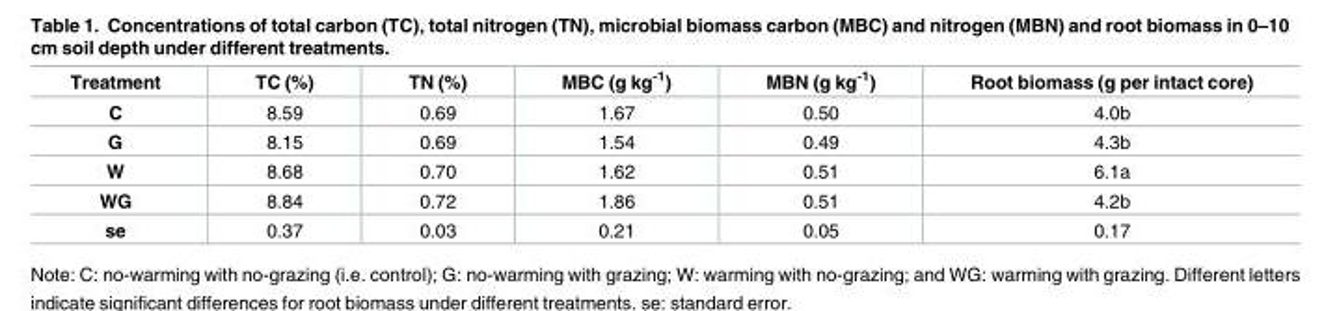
<table><thead><tr><td>Treatment</td><td>TC (%)</td><td>TN (%)</td><td>MBC (g kg<sup>-1</sup>)</td><td>MBN (g kg<sup>-1</sup>)</td><td>Root biomass (g per intact core)</td></tr></thead><tbody><tr><td>C</td><td>8.59</td><td>0.69</td><td>1.67</td><td>0.50</td><td>4.0b</td></tr><tr><td>G</td><td>8.15</td><td>0.69</td><td>1.54</td><td>0.49</td><td>4.3b</td></tr><tr><td>W</td><td>8.68</td><td>0.70</td><td>1.62</td><td>0.51</td><td>6.1a</td></tr><tr><td>WG</td><td>8.84</td><td>0.72</td><td>1.86</td><td>0.51</td><td>4.2b</td></tr><tr><td>se</td><td>0.37</td><td>0.03</td><td>0.21</td><td>0.05</td><td>0.17</td></tr></tbody></table>